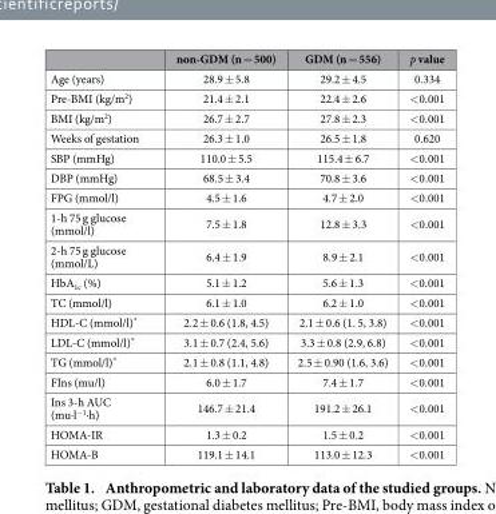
<table><thead><tr><td></td><td>non-GDM (n = 500)</td><td>GDM (n = 556)</td><td>p value</td></tr></thead><tbody><tr><td>Age (years)</td><td>28.9 ± 5.8</td><td>29.2 ± 4.5</td><td>0.334</td></tr><tr><td>Pre-BMI (kg/m<sup>2</sup>)</td><td>21.4 ± 2.1</td><td>22.4 ± 2.6</td><td>&lt; 0.001</td></tr><tr><td>BMI (kg/m<sup>2</sup>)</td><td>26.7 ± 2.7</td><td>27.8 ± 2.3</td><td>&lt; 0.001</td></tr><tr><td>Weeks of gestation</td><td>26.3 ± 1.0</td><td>26.5 ± 1.8</td><td>0.620</td></tr><tr><td>SBP (mmHg)</td><td>110.0 ± 5.5</td><td>115.4 ± 6.7</td><td>&lt; 0.001</td></tr><tr><td>DBP (mmHg)</td><td>68.5 ± 3.4</td><td>70.8 ± 3.6</td><td>&lt; 0.001</td></tr><tr><td>FPG (mmol/l)</td><td>4.5 ± 1.6</td><td>4.7 ± 2.0</td><td>&lt; 0.001</td></tr><tr><td>1-h 75 g glucose (mmol/l)</td><td>7.5 ± 1.8</td><td>12.8 ± 3.3</td><td>&lt; 0.001</td></tr><tr><td>2-h 75 g glucose (mmol/L)</td><td>6.4 ± 1.9</td><td>8.9 ± 2.1</td><td>&lt; 0.001</td></tr><tr><td>HbA<sub>1c</sub> (%)</td><td>5.1 ± 1.2</td><td>5.6 ± 1.3</td><td>&lt; 0.001</td></tr><tr><td>TC (mmol/l)</td><td>6.1 ± 1.0</td><td>6.2 ± 1.0</td><td>&lt; 0.001</td></tr><tr><td>HDL-C (mmol/l)*</td><td>2.2 ± 0.6 (1.8, 4.5)</td><td>2.1 ± 0.6 (1. 5, 3.8)</td><td>&lt; 0.001</td></tr><tr><td>LDL-C (mmol/l)*</td><td>3.1 ± 0.7 (2.4, 5.6)</td><td>3.3 ± 0.8 (2.9, 6.8)</td><td>&lt; 0.001</td></tr><tr><td>TG (mmol/l)*</td><td>2.1 ± 0.8 (1.1, 4.8)</td><td>2.5 ± 0.90 (1.6, 3.6)</td><td>&lt; 0.001</td></tr><tr><td>FIns (mu/l)</td><td>6.0 ± 1.7</td><td>7.4 ± 1.7</td><td>&lt; 0.001</td></tr><tr><td>Ins 3-h AUC (mu·l<sup>−1</sup>·h)</td><td>146.7 ± 21.4</td><td>191.2 ± 26.1</td><td>&lt; 0.001</td></tr><tr><td>HOMA-IR</td><td>1.3 ± 0.2</td><td>1.5 ± 0.2</td><td>&lt; 0.001</td></tr><tr><td>HOMA-B</td><td>119.1 ± 14.1</td><td>113.0 ± 12.3</td><td>&lt; 0.001</td></tr></tbody></table>